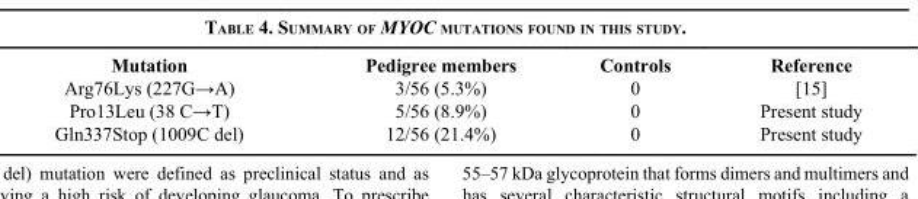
<table><thead><tr><td>Mutation</td><td>Pedigree members</td><td>Controls</td><td>Reference</td></tr></thead><tbody><tr><td>Arg76Lys (227G→A)</td><td>3/56 (5.3%)</td><td>0</td><td>[15]</td></tr><tr><td>Pro13Leu (38 C→T)</td><td>5/56 (8.9%)</td><td>0</td><td>Present study</td></tr><tr><td>Gln337Stop (1009C del)</td><td>12/56 (21.4%)</td><td>0</td><td>Present study</td></tr></tbody></table>